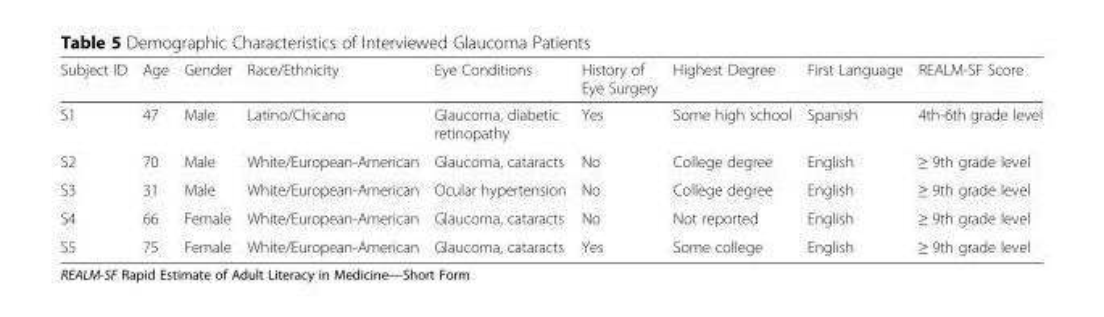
<table><thead><tr><td>Subject ID</td><td>Age</td><td>Gender</td><td>Race/Ethnicity</td><td>Eye Conditions</td><td>History of Eye Surgery</td><td>Highest Degree</td><td>First Language</td><td>REALM-SF Score</td></tr></thead><tbody><tr><td>S1</td><td>47</td><td>Male</td><td>Latino/Chicano</td><td>Glaucoma, diabetic retinopathy</td><td>Yes</td><td>Some high school</td><td>Spanish</td><td>4th-6th grade level</td></tr><tr><td>S2</td><td>70</td><td>Male</td><td>White/European-American</td><td>Glaucoma, cataracts</td><td>No</td><td>College degree</td><td>English</td><td>≥ 9th grade level</td></tr><tr><td>S3</td><td>31</td><td>Male</td><td>White/European-American</td><td>Ocular hypertension</td><td>No</td><td>College degree</td><td>English</td><td>≥ 9th grade level</td></tr><tr><td>S4</td><td>66</td><td>Female</td><td>White/European-American</td><td>Glaucoma, cataracts</td><td>No</td><td>Not reported</td><td>English</td><td>≥ 9th grade level</td></tr><tr><td>S5</td><td>75</td><td>Female</td><td>White/European-American</td><td>Glaucoma, cataracts</td><td>Yes</td><td>Some college</td><td>English</td><td>≥ 9th grade level</td></tr></tbody></table>